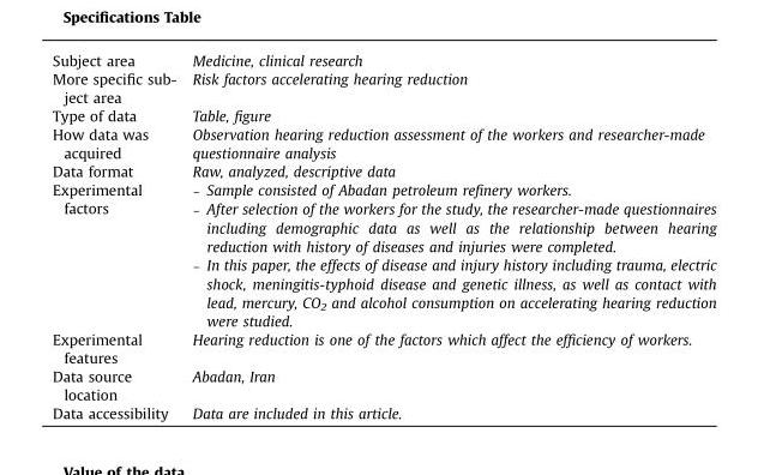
<table><tbody><tr><td>Subject area</td><td>Medicine, clinical research</td></tr><tr><td>More specific sub- ject area</td><td>Risk factors accelerating hearing reduction</td></tr><tr><td>Type of data</td><td>Table, figure</td></tr><tr><td>How data was acquired</td><td>Observation hearing reduction assessment of the workers and researcher-made questionnaire analysis</td></tr><tr><td>Data format</td><td>Raw, analyzed, descriptive data</td></tr><tr><td>Experimental factors</td><td>– Sample consisted of Abadan petroleum refinery workers. – After selection of the workers for the study, the researcher-made questionnaires including demographic data as well as the relationship between hearing reduction with history of diseases and injuries were completed. – In this paper, the effects of disease and injury history including trauma, electric shock, meningitis-typhoid disease and genetic illness, as well as contact with lead, mercury, CO<sub>2</sub> and alcohol consumption on accelerating hearing reduction were studied.</td></tr><tr><td>Experimental features</td><td>Hearing reduction is one of the factors which affect the efficiency of workers.</td></tr><tr><td>Data source location</td><td>Abadan, Iran</td></tr><tr><td>Data accessibility</td><td>Data are included in this article.</td></tr></tbody></table>